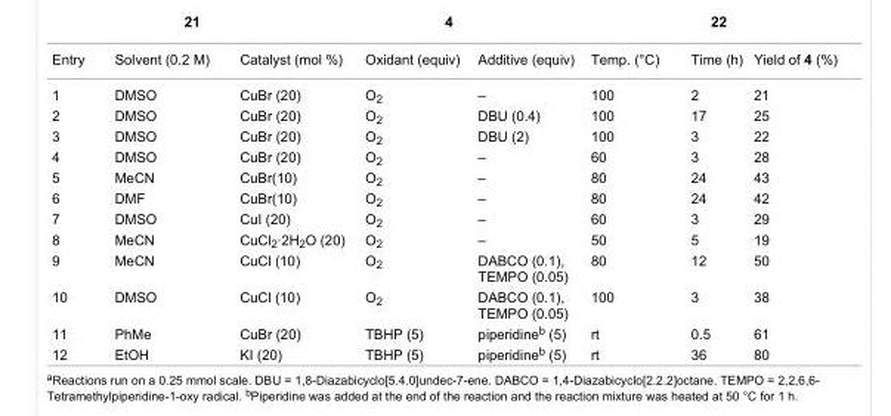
<table><tbody><tr><td>Entry</td><td>Solvent (0.2 M)</td><td>Catalyst (mol %)</td><td>Oxidant (equiv)</td><td>Additive (equiv)</td><td>Temp. (°C)</td><td>Time (h)</td><td>Yield of 4 (%)</td></tr><tr><td>1</td><td>DMSO</td><td>CuBr (20)</td><td>O<sub>2</sub></td><td>–</td><td>100</td><td>2</td><td>21</td></tr><tr><td>2</td><td>DMSO</td><td>CuBr (20)</td><td>O<sub>2</sub></td><td>DBU (0.4)</td><td>100</td><td>17</td><td>25</td></tr><tr><td>3</td><td>DMSO</td><td>CuBr (20)</td><td>O<sub>2</sub></td><td>DBU (2)</td><td>100</td><td>3</td><td>22</td></tr><tr><td>4</td><td>DMSO</td><td>CuBr (20)</td><td>O<sub>2</sub></td><td>–</td><td>60</td><td>3</td><td>28</td></tr><tr><td>5</td><td>MeCN</td><td>CuBr(10)</td><td>O<sub>2</sub></td><td>–</td><td>80</td><td>24</td><td>43</td></tr><tr><td>6</td><td>DMF</td><td>CuBr(10)</td><td>O<sub>2</sub></td><td>–</td><td>80</td><td>24</td><td>42</td></tr><tr><td>7</td><td>DMSO</td><td>CuI (20)</td><td>O<sub>2</sub></td><td>–</td><td>60</td><td>3</td><td>29</td></tr><tr><td>8</td><td>MeCN</td><td>CuCl<sub>2</sub>·2H<sub>2</sub>O (20)</td><td>O<sub>2</sub></td><td>–</td><td>50</td><td>5</td><td>19</td></tr><tr><td>9</td><td>MeCN</td><td>CuCl (10)</td><td>O<sub>2</sub></td><td>DABCO (0.1), TEMPO (0.05)</td><td>80</td><td>12</td><td>50</td></tr><tr><td>10</td><td>DMSO</td><td>CuCl (10)</td><td>O<sub>2</sub></td><td>DABCO (0.1), TEMPO (0.05)</td><td>100</td><td>3</td><td>38</td></tr><tr><td>11</td><td>PhMe</td><td>CuBr (20)</td><td>TBHP (5)</td><td>piperidine<sup>b</sup> (5)</td><td>rt</td><td>0.5</td><td>61</td></tr><tr><td>12</td><td>EtOH</td><td>KI (20)</td><td>TBHP (5)</td><td>piperidine<sup>b</sup> (5)</td><td>rt</td><td>36</td><td>80</td></tr></tbody></table>